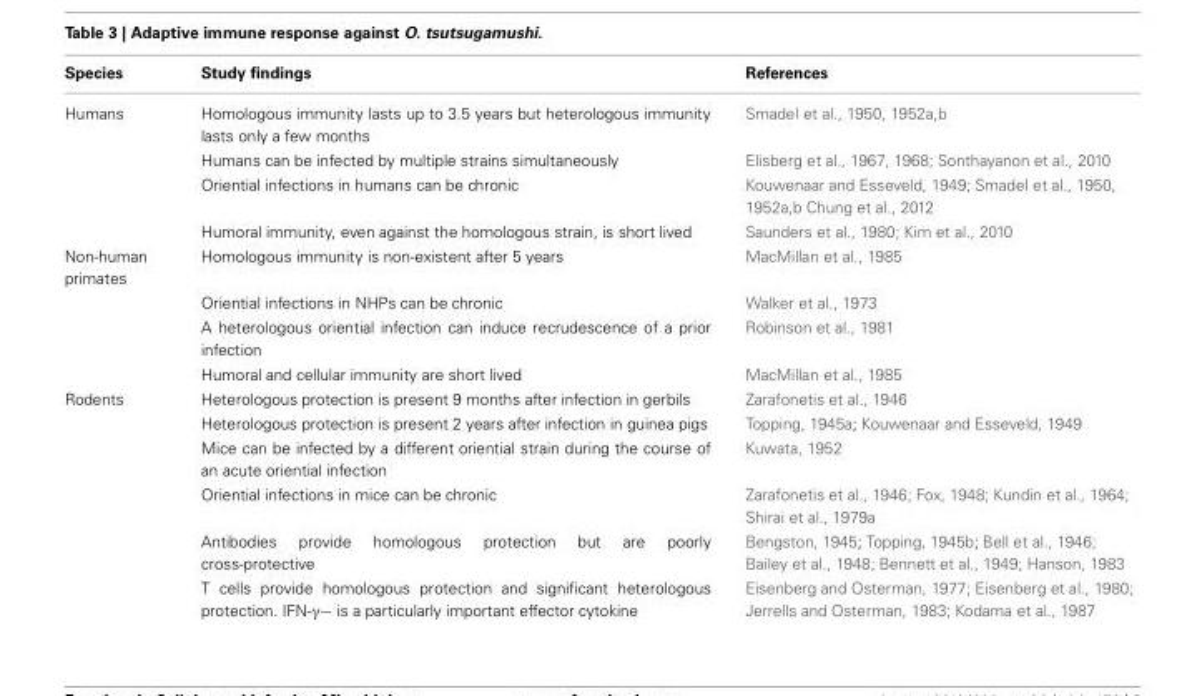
<table><thead><tr><td>Species</td><td>Study findings</td><td>References</td></tr></thead><tbody><tr><td rowspan="4">Humans</td><td>Homologous immunity lasts up to 3.5 years but heterologous immunity lasts only a few months</td><td>Smadel et al., 1950, 1952a,b</td></tr><tr><td>Humans can be infected by multiple strains simultaneously</td><td>Elisberg et al., 1967, 1968; Sonthayanon et al., 2010</td></tr><tr><td>Oriential infections in humans can be chronic</td><td>Kouwenaar and Esseveld, 1949; Smadel et al., 1950, 1952a,b Chung et al., 2012</td></tr><tr><td>Humoral immunity, even against the homologous strain, is short lived</td><td>Saunders et al., 1980; Kim et al., 2010</td></tr><tr><td rowspan="4">Non-human primates</td><td>Homologous immunity is non-existent after 5 years</td><td>MacMillan et al., 1985</td></tr><tr><td>Oriential infections in NHPs can be chronic</td><td>Walker et al., 1973</td></tr><tr><td>A heterologous oriential infection can induce recrudescence of a prior infection</td><td>Robinson et al., 1981</td></tr><tr><td>Humoral and cellular immunity are short lived</td><td>MacMillan et al., 1985</td></tr><tr><td rowspan="6">Rodents</td><td>Heterologous protection is present 9 months after infection in gerbils</td><td>Zarafonetis et al., 1946</td></tr><tr><td>Heterologous protection is present 2 years after infection in guinea pigs</td><td>Topping, 1945a; Kouwenaar and Esseveld, 1949</td></tr><tr><td>Mice can be infected by a different oriential strain during the course of an acute oriential infection</td><td>Kuwata, 1952</td></tr><tr><td>Oriential infections in mice can be chronic</td><td>Zarafonetis et al., 1946; Fox, 1948; Kundin et al., 1964; Shirai et al., 1979a</td></tr><tr><td>Antibodies provide homologous protection but are poorly cross-protective</td><td>Bengston, 1945; Topping, 1945b; Bell et al., 1946; Bailey et al., 1948; Bennett et al., 1949; Hanson, 1983</td></tr><tr><td>T cells provide homologous protection and significant heterologous protection. IFN-γ− is a particularly important effector cytokine</td><td>Eisenberg and Osterman, 1977; Eisenberg et al., 1980; Jerrells and Osterman, 1983; Kodama et al., 1987</td></tr></tbody></table>